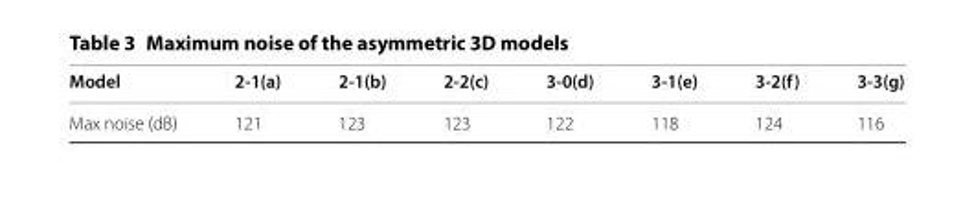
<table><thead><tr><td>Model</td><td>2-1(a)</td><td>2-1(b)</td><td>2-2(c)</td><td>3-0(d)</td><td>3-1(e)</td><td>3-2(f)</td><td>3-3(g)</td></tr></thead><tbody><tr><td>Max noise (dB)</td><td>121</td><td>123</td><td>123</td><td>122</td><td>118</td><td>124</td><td>116</td></tr></tbody></table>